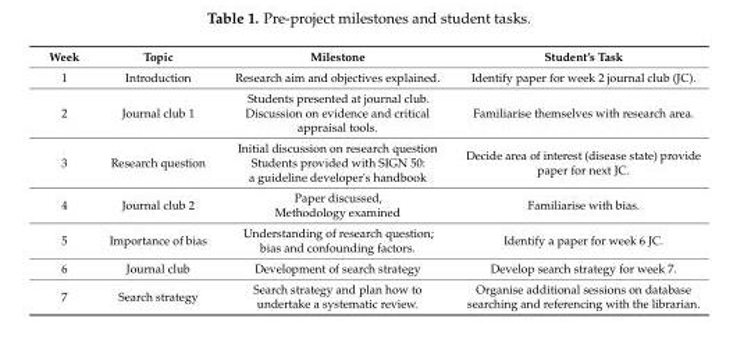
<table><thead><tr><td>Week</td><td>Topic</td><td>Milestone</td><td>Student’s Task</td></tr></thead><tbody><tr><td>1</td><td>Introduction</td><td>Research aim and objectives explained.</td><td>Identify paper for week 2 journal club (JC).</td></tr><tr><td>2</td><td>Journal club 1</td><td>Students presented at journal club. Discussion on evidence and critical appraisal tools.</td><td>Familiarise themselves with research area.</td></tr><tr><td>3</td><td>Research question</td><td>Initial discussion on research question Students provided with SIGN 50: a guideline developer&#x27;s handbook</td><td>Decide area of interest (disease state) provide paper for next JC.</td></tr><tr><td>4</td><td>Journal club 2</td><td>Paper discussed, Methodology examined</td><td>Familiarise with bias.</td></tr><tr><td>5</td><td>Importance of bias</td><td>Understanding of research question; bias and confounding factors.</td><td>Identify a paper for week 6 JC.</td></tr><tr><td>6</td><td>Journal club</td><td>Development of search strategy</td><td>Develop search strategy for week 7.</td></tr><tr><td>7</td><td>Search strategy</td><td>Search strategy and plan how to undertake a systematic review.</td><td>Organise additional sessions on database searching and referencing with the librarian.</td></tr></tbody></table>